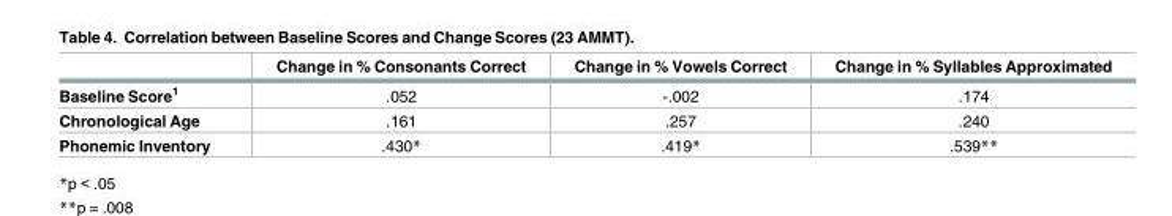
<table><thead><tr><td></td><td>Change in % Consonants Correct</td><td>Change in % Vowels Correct</td><td>Change in % Syllables Approximated</td></tr></thead><tbody><tr><td>Baseline Score<sup>1</sup></td><td>.052</td><td>-.002</td><td>.174</td></tr><tr><td>Chronological Age</td><td>.161</td><td>.257</td><td>.240</td></tr><tr><td>Phonemic Inventory</td><td>.430*</td><td>.419*</td><td>.539**</td></tr></tbody></table>